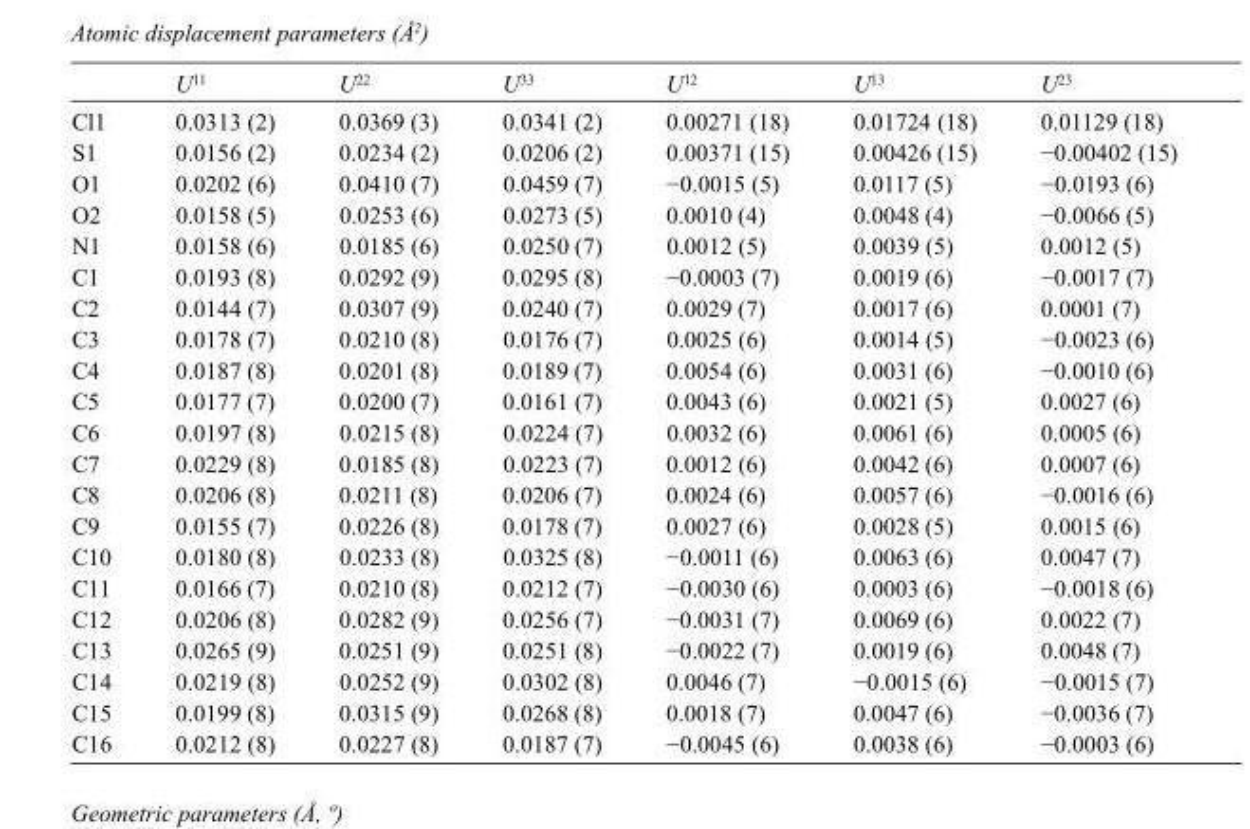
<table><thead><tr><td></td><td>U<sup>11</sup></td><td>U<sup>22</sup></td><td>U<sup>33</sup></td><td>U<sup>12</sup></td><td>U<sup>13</sup></td><td>U<sup>23</sup></td></tr></thead><tbody><tr><td>Cl1</td><td>0.0313 (2)</td><td>0.0369 (3)</td><td>0.0341 (2)</td><td>0.00271 (18)</td><td>0.01724 (18)</td><td>0.01129 (18)</td></tr><tr><td>S1</td><td>0.0156 (2)</td><td>0.0234 (2)</td><td>0.0206 (2)</td><td>0.00371 (15)</td><td>0.00426 (15)</td><td>−0.00402 (15)</td></tr><tr><td>O1</td><td>0.0202 (6)</td><td>0.0410 (7)</td><td>0.0459 (7)</td><td>−0.0015 (5)</td><td>0.0117 (5)</td><td>−0.0193 (6)</td></tr><tr><td>O2</td><td>0.0158 (5)</td><td>0.0253 (6)</td><td>0.0273 (5)</td><td>0.0010 (4)</td><td>0.0048 (4)</td><td>−0.0066 (5)</td></tr><tr><td>N1</td><td>0.0158 (6)</td><td>0.0185 (6)</td><td>0.0250 (7)</td><td>0.0012 (5)</td><td>0.0039 (5)</td><td>0.0012 (5)</td></tr><tr><td>C1</td><td>0.0193 (8)</td><td>0.0292 (9)</td><td>0.0295 (8)</td><td>−0.0003 (7)</td><td>0.0019 (6)</td><td>−0.0017 (7)</td></tr><tr><td>C2</td><td>0.0144 (7)</td><td>0.0307 (9)</td><td>0.0240 (7)</td><td>0.0029 (7)</td><td>0.0017 (6)</td><td>0.0001 (7)</td></tr><tr><td>C3</td><td>0.0178 (7)</td><td>0.0210 (8)</td><td>0.0176 (7)</td><td>0.0025 (6)</td><td>0.0014 (5)</td><td>−0.0023 (6)</td></tr><tr><td>C4</td><td>0.0187 (8)</td><td>0.0201 (8)</td><td>0.0189 (7)</td><td>0.0054 (6)</td><td>0.0031 (6)</td><td>−0.0010 (6)</td></tr><tr><td>C5</td><td>0.0177 (7)</td><td>0.0200 (7)</td><td>0.0161 (7)</td><td>0.0043 (6)</td><td>0.0021 (5)</td><td>0.0027 (6)</td></tr><tr><td>C6</td><td>0.0197 (8)</td><td>0.0215 (8)</td><td>0.0224 (7)</td><td>0.0032 (6)</td><td>0.0061 (6)</td><td>0.0005 (6)</td></tr><tr><td>C7</td><td>0.0229 (8)</td><td>0.0185 (8)</td><td>0.0223 (7)</td><td>0.0012 (6)</td><td>0.0042 (6)</td><td>0.0007 (6)</td></tr><tr><td>C8</td><td>0.0206 (8)</td><td>0.0211 (8)</td><td>0.0206 (7)</td><td>0.0024 (6)</td><td>0.0057 (6)</td><td>−0.0016 (6)</td></tr><tr><td>C9</td><td>0.0155 (7)</td><td>0.0226 (8)</td><td>0.0178 (7)</td><td>0.0027 (6)</td><td>0.0028 (5)</td><td>0.0015 (6)</td></tr><tr><td>C10</td><td>0.0180 (8)</td><td>0.0233 (8)</td><td>0.0325 (8)</td><td>−0.0011 (6)</td><td>0.0063 (6)</td><td>0.0047 (7)</td></tr><tr><td>C11</td><td>0.0166 (7)</td><td>0.0210 (8)</td><td>0.0212 (7)</td><td>−0.0030 (6)</td><td>0.0003 (6)</td><td>−0.0018 (6)</td></tr><tr><td>C12</td><td>0.0206 (8)</td><td>0.0282 (9)</td><td>0.0256 (7)</td><td>−0.0031 (7)</td><td>0.0069 (6)</td><td>0.0022 (7)</td></tr><tr><td>C13</td><td>0.0265 (9)</td><td>0.0251 (9)</td><td>0.0251 (8)</td><td>−0.0022 (7)</td><td>0.0019 (6)</td><td>0.0048 (7)</td></tr><tr><td>C14</td><td>0.0219 (8)</td><td>0.0252 (9)</td><td>0.0302 (8)</td><td>0.0046 (7)</td><td>−0.0015 (6)</td><td>−0.0015 (7)</td></tr><tr><td>C15</td><td>0.0199 (8)</td><td>0.0315 (9)</td><td>0.0268 (8)</td><td>0.0018 (7)</td><td>0.0047 (6)</td><td>−0.0036 (7)</td></tr><tr><td>C16</td><td>0.0212 (8)</td><td>0.0227 (8)</td><td>0.0187 (7)</td><td>−0.0045 (6)</td><td>0.0038 (6)</td><td>−0.0003 (6)</td></tr></tbody></table>